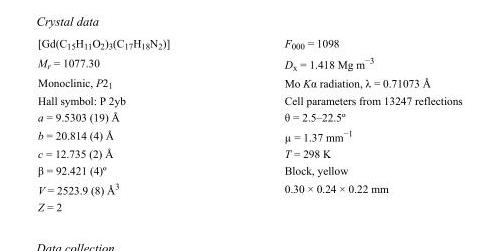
<table><tbody><tr><td>[Gd(C<sub>15</sub>H<sub>11</sub>O<sub>2</sub>)<sub>3</sub>(C<sub>17</sub>H<sub>18</sub>N<sub>2</sub>)]</td><td>F000 = 1098</td></tr><tr><td>M<sub>r</sub> = 1077.30</td><td>D<sub>x</sub> = 1.418 Mg m<sup>−3</sup></td></tr><tr><td>Monoclinic, P2<sub>1</sub></td><td>Mo Kα radiation, λ = 0.71073 Å</td></tr><tr><td>Hall symbol: P 2yb</td><td>Cell parameters from 13247 reflections</td></tr><tr><td>a = 9.5303 (19) Å</td><td>θ = 2.5–22.5º</td></tr><tr><td>b = 20.814 (4) Å</td><td>µ = 1.37 mm<sup>−1</sup></td></tr><tr><td>c = 12.735 (2) Å</td><td>T = 298 K</td></tr><tr><td>β = 92.421 (4)º</td><td>Block, yellow</td></tr><tr><td>V = 2523.9 (8) Å<sup>3</sup></td><td>0.30 × 0.24 × 0.22 mm</td></tr><tr><td>Z = 2</td><td></td></tr></tbody></table>